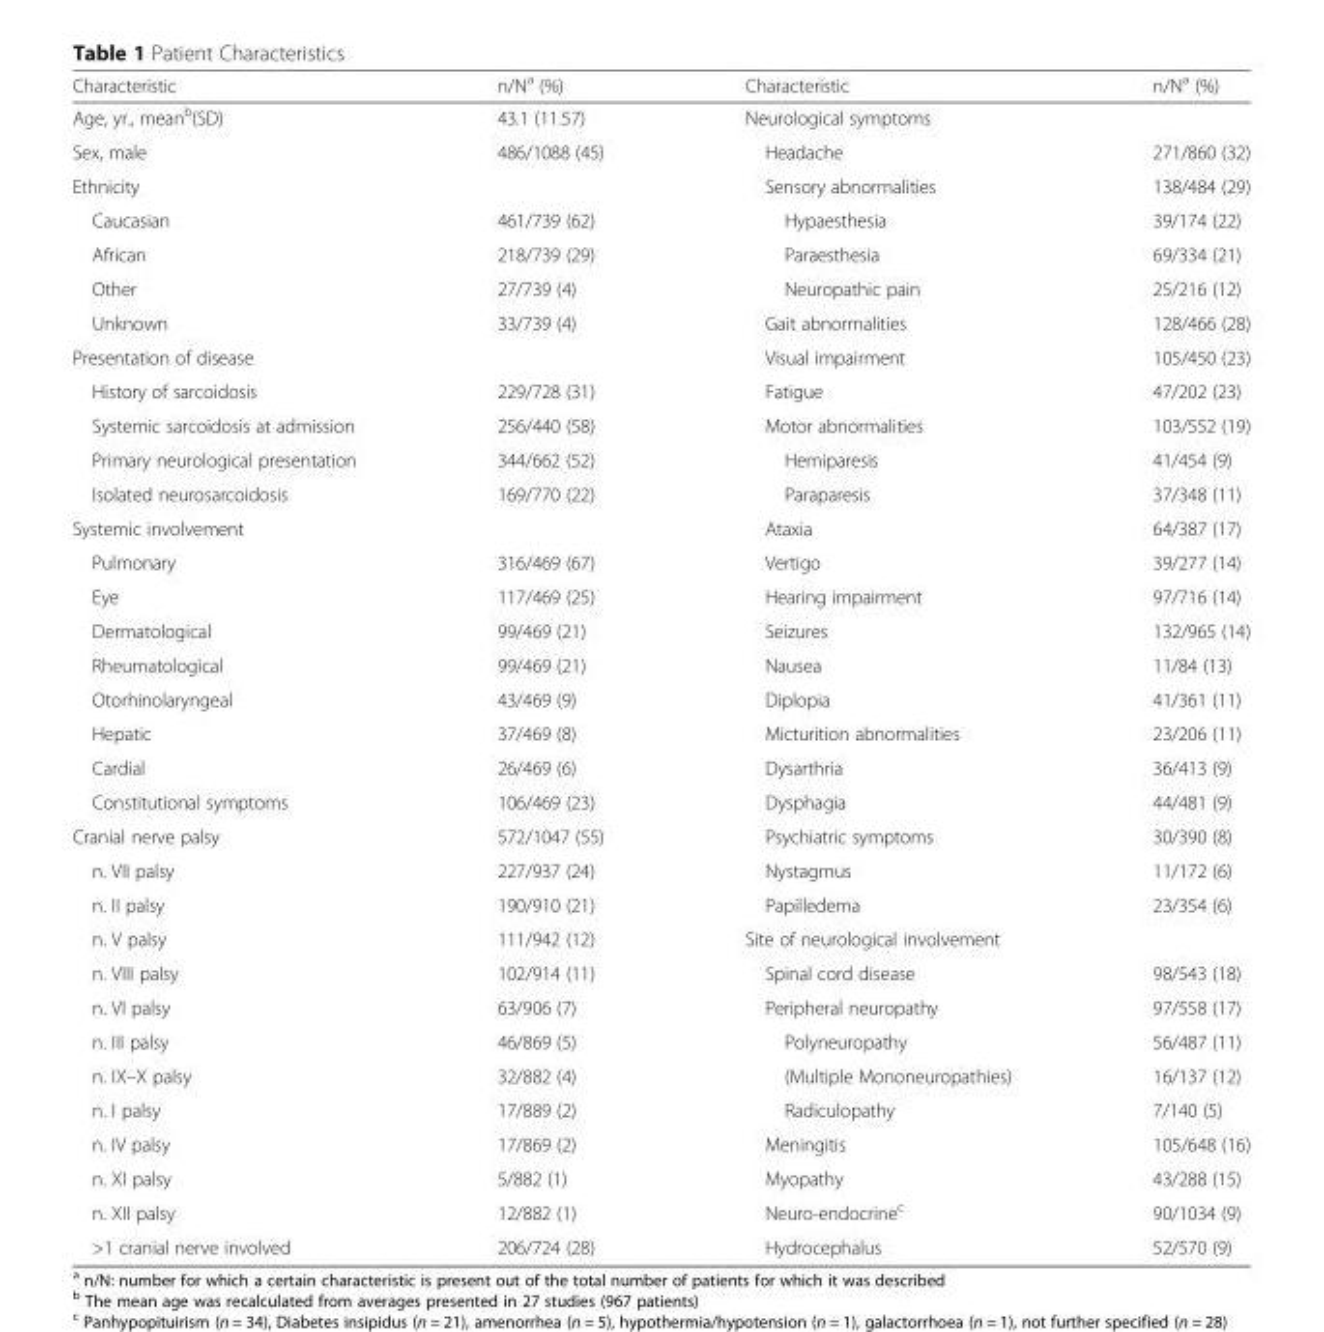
<table><thead><tr><td>Characteristic</td><td>n/N<sup>a</sup> (%)</td><td>Characteristic</td><td>n/N<sup>a</sup> (%)</td></tr></thead><tbody><tr><td>Age, yr., mean<sup>b</sup>(SD)</td><td>43.1 (11.57)</td><td>Neurological symptoms</td><td></td></tr><tr><td>Sex, male</td><td>486/1088 (45)</td><td>Headache</td><td>271/860 (32)</td></tr><tr><td>Ethnicity</td><td></td><td>Sensory abnormalities</td><td>138/484 (29)</td></tr><tr><td>Caucasian</td><td>461/739 (62)</td><td>Hypaesthesia</td><td>39/174 (22)</td></tr><tr><td>African</td><td>218/739 (29)</td><td>Paraesthesia</td><td>69/334 (21)</td></tr><tr><td>Other</td><td>27/739 (4)</td><td>Neuropathic pain</td><td>25/216 (12)</td></tr><tr><td>Unknown</td><td>33/739 (4)</td><td>Gait abnormalities</td><td>128/466 (28)</td></tr><tr><td>Presentation of disease</td><td></td><td>Visual impairment</td><td>105/450 (23)</td></tr><tr><td>History of sarcoidosis</td><td>229/728 (31)</td><td>Fatigue</td><td>47/202 (23)</td></tr><tr><td>Systemic sarcoidosis at admission</td><td>256/440 (58)</td><td>Motor abnormalities</td><td>103/552 (19)</td></tr><tr><td>Primary neurological presentation</td><td>344/662 (52)</td><td>Hemiparesis</td><td>41/454 (9)</td></tr><tr><td>Isolated neurosarcoidosis</td><td>169/770 (22)</td><td>Paraparesis</td><td>37/348 (11)</td></tr><tr><td>Systemic involvement</td><td></td><td>Ataxia</td><td>64/387 (17)</td></tr><tr><td>Pulmonary</td><td>316/469 (67)</td><td>Vertigo</td><td>39/277 (14)</td></tr><tr><td>Eye</td><td>117/469 (25)</td><td>Hearing impairment</td><td>97/716 (14)</td></tr><tr><td>Dermatological</td><td>99/469 (21)</td><td>Seizures</td><td>132/965 (14)</td></tr><tr><td>Rheumatological</td><td>99/469 (21)</td><td>Nausea</td><td>11/84 (13)</td></tr><tr><td>Otorhinolaryngeal</td><td>43/469 (9)</td><td>Diplopia</td><td>41/361 (11)</td></tr><tr><td>Hepatic</td><td>37/469 (8)</td><td>Micturition abnormalities</td><td>23/206 (11)</td></tr><tr><td>Cardial</td><td>26/469 (6)</td><td>Dysarthria</td><td>36/413 (9)</td></tr><tr><td>Constitutional symptoms</td><td>106/469 (23)</td><td>Dysphagia</td><td>44/481 (9)</td></tr><tr><td>Cranial nerve palsy</td><td>572/1047 (55)</td><td>Psychiatric symptoms</td><td>30/390 (8)</td></tr><tr><td>n. VII palsy</td><td>227/937 (24)</td><td>Nystagmus</td><td>11/172 (6)</td></tr><tr><td>n. II palsy</td><td>190/910 (21)</td><td>Papilledema</td><td>23/354 (6)</td></tr><tr><td>n. V palsy</td><td>111/942 (12)</td><td>Site of neurological involvement</td><td></td></tr><tr><td>n. VIII palsy</td><td>102/914 (11)</td><td>Spinal cord disease</td><td>98/543 (18)</td></tr><tr><td>n. VI palsy</td><td>63/906 (7)</td><td>Peripheral neuropathy</td><td>97/558 (17)</td></tr><tr><td>n. III palsy</td><td>46/869 (5)</td><td>Polyneuropathy</td><td>56/487 (11)</td></tr><tr><td>n. IX–X palsy</td><td>32/882 (4)</td><td>(Multiple Mononeuropathies)</td><td>16/137 (12)</td></tr><tr><td>n. I palsy</td><td>17/889 (2)</td><td>Radiculopathy</td><td>7/140 (5)</td></tr><tr><td>n. IV palsy</td><td>17/869 (2)</td><td>Meningitis</td><td>105/648 (16)</td></tr><tr><td>n. XI palsy</td><td>5/882 (1)</td><td>Myopathy</td><td>43/288 (15)</td></tr><tr><td>n. XII palsy</td><td>12/882 (1)</td><td>Neuro-endocrine<sup>c</sup></td><td>90/1034 (9)</td></tr><tr><td>&gt;1 cranial nerve involved</td><td>206/724 (28)</td><td>Hydrocephalus</td><td>52/570 (9)</td></tr></tbody></table>